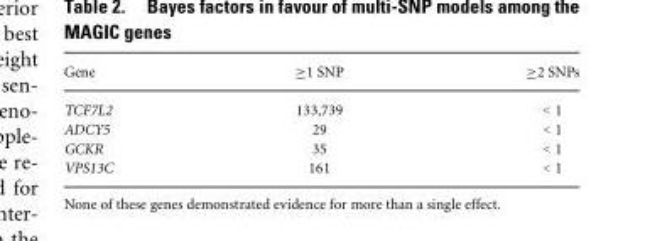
<table><thead><tr><td>Gene</td><td>≥1 SNP</td><td>≥2 SNPs</td></tr></thead><tbody><tr><td>TCF7L2</td><td>133,739</td><td>&lt; 1</td></tr><tr><td>ADCY5</td><td>29</td><td>&lt; 1</td></tr><tr><td>GCKR</td><td>35</td><td>&lt; 1</td></tr><tr><td>VPS13C</td><td>161</td><td>&lt; 1</td></tr></tbody></table>